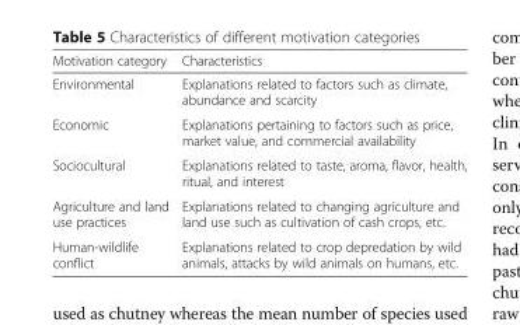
<table><thead><tr><td>Motivation category</td><td>Characteristics</td></tr></thead><tbody><tr><td>Environmental</td><td>Explanations related to factors such as climate, abundance and scarcity</td></tr><tr><td>Economic</td><td>Explanations pertaining to factors such as price, market value, and commercial availability</td></tr><tr><td>Sociocultural</td><td>Explanations related to taste, aroma, flavor, health, ritual, and interest</td></tr><tr><td>Agriculture and land use practices</td><td>Explanations related to changing agriculture and land use such as cultivation of cash crops, etc.</td></tr><tr><td>Human-wildlife conflict</td><td>Explanations related to crop depredation by wild animals, attacks by wild animals on humans, etc.</td></tr></tbody></table>